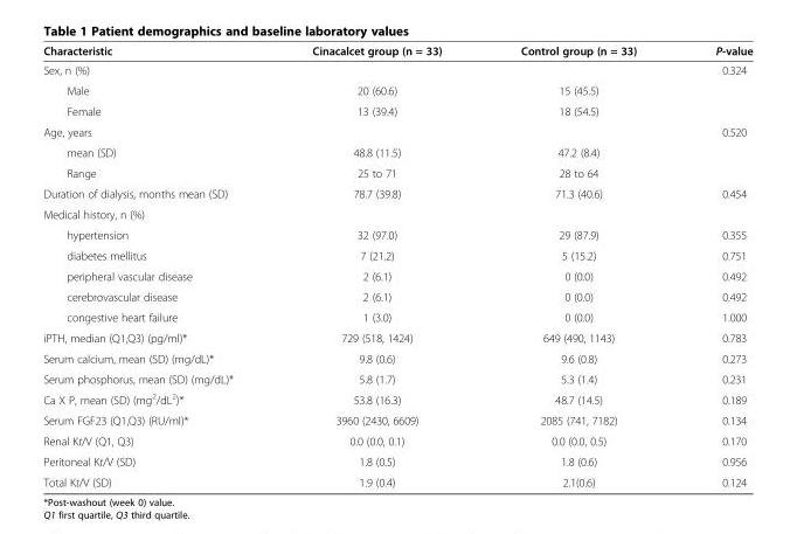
<table><thead><tr><td>Characteristic</td><td>Cinacalcet group (n = 33)</td><td>Control group (n = 33)</td><td>P-value</td></tr></thead><tbody><tr><td>Sex, n (%)</td><td></td><td></td><td>0.324</td></tr><tr><td>Male</td><td>20 (60.6)</td><td>15 (45.5)</td><td></td></tr><tr><td>Female</td><td>13 (39.4)</td><td>18 (54.5)</td><td></td></tr><tr><td>Age, years</td><td></td><td></td><td>0.520</td></tr><tr><td>mean (SD)</td><td>48.8 (11.5)</td><td>47.2 (8.4)</td><td></td></tr><tr><td>Range</td><td>25 to 71</td><td>28 to 64</td><td></td></tr><tr><td>Duration of dialysis, months mean (SD)</td><td>78.7 (39.8)</td><td>71.3 (40.6)</td><td>0.454</td></tr><tr><td colspan="4">Medical history, n (%)</td></tr><tr><td>hypertension</td><td>32 (97.0)</td><td>29 (87.9)</td><td>0.355</td></tr><tr><td>diabetes mellitus</td><td>7 (21.2)</td><td>5 (15.2)</td><td>0.751</td></tr><tr><td>peripheral vascular disease</td><td>2 (6.1)</td><td>0 (0.0)</td><td>0.492</td></tr><tr><td>cerebrovascular disease</td><td>2 (6.1)</td><td>0 (0.0)</td><td>0.492</td></tr><tr><td>congestive heart failure</td><td>1 (3.0)</td><td>0 (0.0)</td><td>1.000</td></tr><tr><td>iPTH, median (Q1,Q3) (pg/ml)*</td><td>729 (518, 1424)</td><td>649 (490, 1143)</td><td>0.783</td></tr><tr><td>Serum calcium, mean (SD) (mg/dL)*</td><td>9.8 (0.6)</td><td>9.6 (0.8)</td><td>0.273</td></tr><tr><td>Serum phosphorus, mean (SD) (mg/dL)*</td><td>5.8 (1.7)</td><td>5.3 (1.4)</td><td>0.231</td></tr><tr><td>Ca X P, mean (SD) (mg<sup>2</sup>/dL<sup>2</sup>)*</td><td>53.8 (16.3)</td><td>48.7 (14.5)</td><td>0.189</td></tr><tr><td>Serum FGF23 (Q1,Q3) (RU/ml)*</td><td>3960 (2430, 6609)</td><td>2085 (741, 7182)</td><td>0.134</td></tr><tr><td>Renal Kt/V (Q1, Q3)</td><td>0.0 (0.0, 0.1)</td><td>0.0 (0.0, 0.5)</td><td>0.170</td></tr><tr><td>Peritoneal Kt/V (SD)</td><td>1.8 (0.5)</td><td>1.8 (0.6)</td><td>0.956</td></tr><tr><td>Total Kt/V (SD)</td><td>1.9 (0.4)</td><td>2.1(0.6)</td><td>0.124</td></tr></tbody></table>